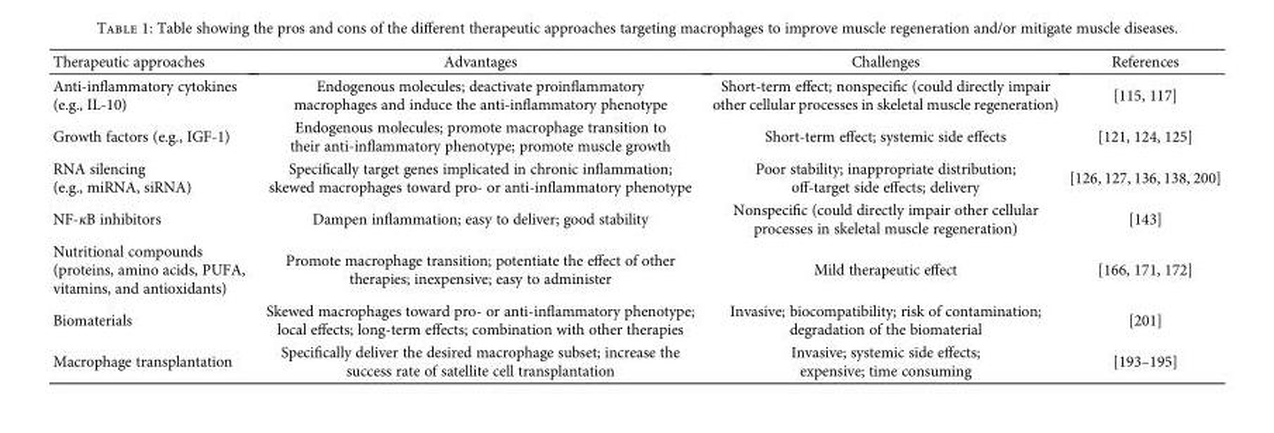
<table><thead><tr><td>Therapeutic approaches</td><td>Advantages</td><td>Challenges</td><td>References</td></tr></thead><tbody><tr><td>Anti-inflammatory cytokines (e.g., IL-10)</td><td>Endogenous molecules; deactivate proinflammatory macrophages and induce the anti-inflammatory phenotype</td><td>Short-term effect; nonspecific (could directly impair other cellular processes in skeletal muscle regeneration)</td><td>[115, 117]</td></tr><tr><td>Growth factors (e.g., IGF-1)</td><td>Endogenous molecules; promote macrophage transition to their anti-inflammatory phenotype; promote muscle growth</td><td>Short-term effect; systemic side effects</td><td>[121, 124, 125]</td></tr><tr><td>RNA silencing (e.g., miRNA, siRNA)</td><td>Specifically target genes implicated in chronic inflammation; skewed macrophages toward pro- or anti-inflammatory phenotype</td><td>Poor stability; inappropriate distribution; off-target side effects; delivery</td><td>[126, 127, 136, 138, 200]</td></tr><tr><td>NF-κB inhibitors</td><td>Dampen inflammation; easy to deliver; good stability</td><td>Nonspecific (could directly impair other cellular processes in skeletal muscle regeneration)</td><td>[143]</td></tr><tr><td>Nutritional compounds (proteins, amino acids, PUFA, vitamins, and antioxidants)</td><td>Promote macrophage transition; potentiate the effect of other therapies; inexpensive; easy to administer</td><td>Mild therapeutic effect</td><td>[166, 171, 172]</td></tr><tr><td>Biomaterials</td><td>Skewed macrophages toward pro- or anti-inflammatory phenotype; local effects; long-term effects; combination with other therapies</td><td>Invasive; biocompatibility; risk of contamination; degradation of the biomaterial</td><td>[201]</td></tr><tr><td>Macrophage transplantation</td><td>Specifically deliver the desired macrophage subset; increase the success rate of satellite cell transplantation</td><td>Invasive; systemic side effects; expensive; time consuming</td><td>[193–195]</td></tr></tbody></table>